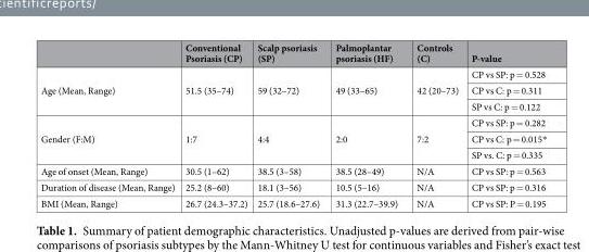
<table><thead><tr><td></td><td>Conventional Psoriasis (CP)</td><td>Scalp psoriasis (SP)</td><td>Palmoplantar psoriasis (HF)</td><td>Controls (C)</td><td>P-value</td></tr></thead><tbody><tr><td rowspan="3">Age (Mean, Range)</td><td rowspan="3">51.5 (35–74)</td><td rowspan="3">59 (32–72)</td><td rowspan="3">49 (33–65)</td><td rowspan="3">42 (20–73)</td><td>CP vs SP: p = 0.528</td></tr><tr><td>CP vs C: p = 0.311</td></tr><tr><td>SP vs C: p = 0.122</td></tr><tr><td rowspan="3">Gender (F:M)</td><td rowspan="3">1:7</td><td rowspan="3">4:4</td><td rowspan="3">2:0</td><td rowspan="3">7:2</td><td>CP vs SP: p = 0.282</td></tr><tr><td>CP vs C: p = 0.015*</td></tr><tr><td>SP vs. C: p = 0.335</td></tr><tr><td>Age of onset (Mean, Range)</td><td>30.5 (1–62)</td><td>38.5 (3–58)</td><td>38.5 (28–49)</td><td>N/A</td><td>CP vs SP: p = 0.563</td></tr><tr><td>Duration of disease (Mean, Range)</td><td>25.2 (8–60)</td><td>18.1 (3–56)</td><td>10.5 (5–16)</td><td>N/A</td><td>CP vs SP: p = 0.316</td></tr><tr><td>BMI (Mean, Range)</td><td>26.7 (24.3–37.2)</td><td>25.7 (18.6–27.6)</td><td>31.3 (22.7–39.9)</td><td>N/A</td><td>CP vs SP: P = 0.195</td></tr></tbody></table>